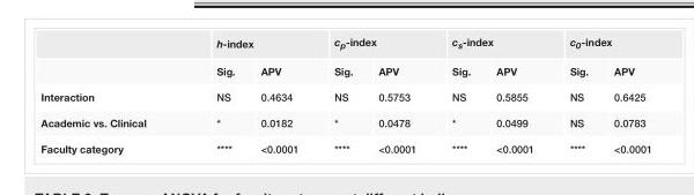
<table><thead><tr><td rowspan="2"></td><td colspan="2">h-index</td><td colspan="2">c<sub>p</sub>-index</td><td colspan="2">c<sub>s</sub>-index</td><td colspan="2">c<sub>0</sub>-index</td></tr><tr><td>Sig.</td><td>APV</td><td>Sig.</td><td>APV</td><td>Sig.</td><td>APV</td><td>Sig.</td><td>APV</td></tr></thead><tbody><tr><td>Interaction</td><td>NS</td><td>0.4634</td><td>NS</td><td>0.5753</td><td>NS</td><td>0.5855</td><td>NS</td><td>0.6425</td></tr><tr><td>Academic vs. Clinical</td><td>*</td><td>0.0182</td><td>*</td><td>0.0478</td><td>*</td><td>0.0499</td><td>NS</td><td>0.0783</td></tr><tr><td>Faculty category</td><td>****</td><td>&lt;0.0001</td><td>****</td><td>&lt;0.0001</td><td>****</td><td>&lt;0.0001</td><td>****</td><td>&lt;0.0001</td></tr></tbody></table>